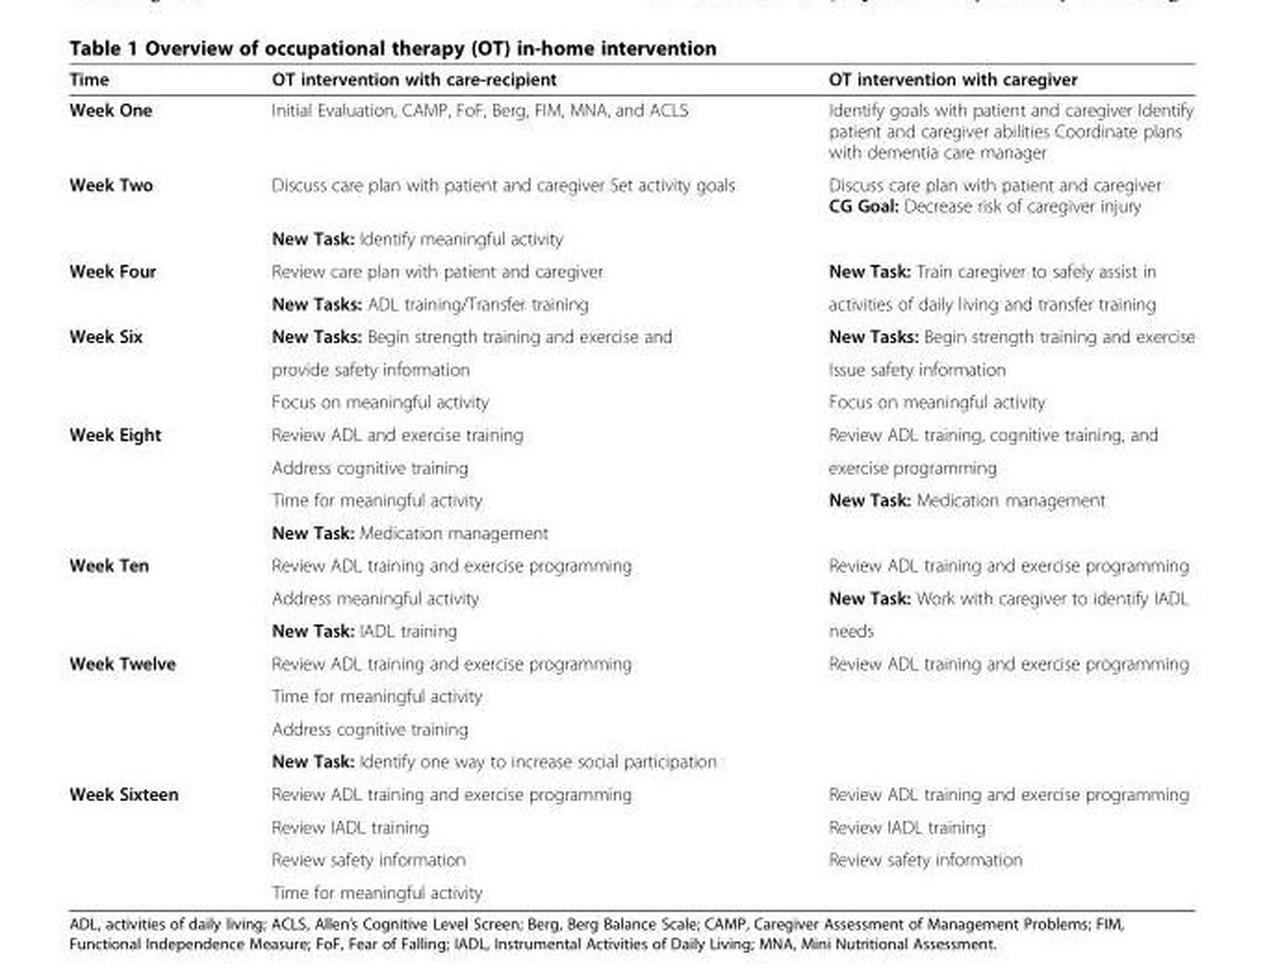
<table><thead><tr><td>Time</td><td>OT intervention with care-recipient</td><td>OT intervention with caregiver</td></tr></thead><tbody><tr><td>Week One</td><td>Initial Evaluation, CAMP, FoF, Berg, FIM, MNA, and ACLS</td><td>Identify goals with patient and caregiver Identify patient and caregiver abilities Coordinate plans with dementia care manager</td></tr><tr><td rowspan="2">Week Two</td><td>Discuss care plan with patient and caregiver Set activity goals</td><td>Discuss care plan with patient and caregiver CG Goal: Decrease risk of caregiver injury</td></tr><tr><td>New Task: Identify meaningful activity</td><td></td></tr><tr><td rowspan="2">Week Four</td><td>Review care plan with patient and caregiver</td><td>New Task: Train caregiver to safely assist in</td></tr><tr><td>New Tasks: ADL training/Transfer training</td><td>activities of daily living and transfer training</td></tr><tr><td rowspan="3">Week Six</td><td>New Tasks: Begin strength training and exercise and</td><td>New Tasks: Begin strength training and exercise</td></tr><tr><td>provide safety information</td><td>Issue safety information</td></tr><tr><td>Focus on meaningful activity</td><td>Focus on meaningful activity</td></tr><tr><td rowspan="4">Week Eight</td><td>Review ADL and exercise training</td><td>Review ADL training, cognitive training, and</td></tr><tr><td>Address cognitive training</td><td>exercise programming</td></tr><tr><td>Time for meaningful activity</td><td>New Task: Medication management</td></tr><tr><td>New Task: Medication management</td><td></td></tr><tr><td rowspan="3">Week Ten</td><td>Review ADL training and exercise programming</td><td>Review ADL training and exercise programming</td></tr><tr><td>Address meaningful activity</td><td>New Task: Work with caregiver to identify IADL</td></tr><tr><td>New Task: IADL training</td><td>needs</td></tr><tr><td rowspan="4">Week Twelve</td><td>Review ADL training and exercise programming</td><td>Review ADL training and exercise programming</td></tr><tr><td>Time for meaningful activity</td><td></td></tr><tr><td>Address cognitive training</td><td></td></tr><tr><td>New Task: Identify one way to increase social participation</td><td></td></tr><tr><td rowspan="4">Week Sixteen</td><td>Review ADL training and exercise programming</td><td>Review ADL training and exercise programming</td></tr><tr><td>Review IADL training</td><td>Review IADL training</td></tr><tr><td>Review safety information</td><td>Review safety information</td></tr><tr><td>Time for meaningful activity</td><td></td></tr></tbody></table>